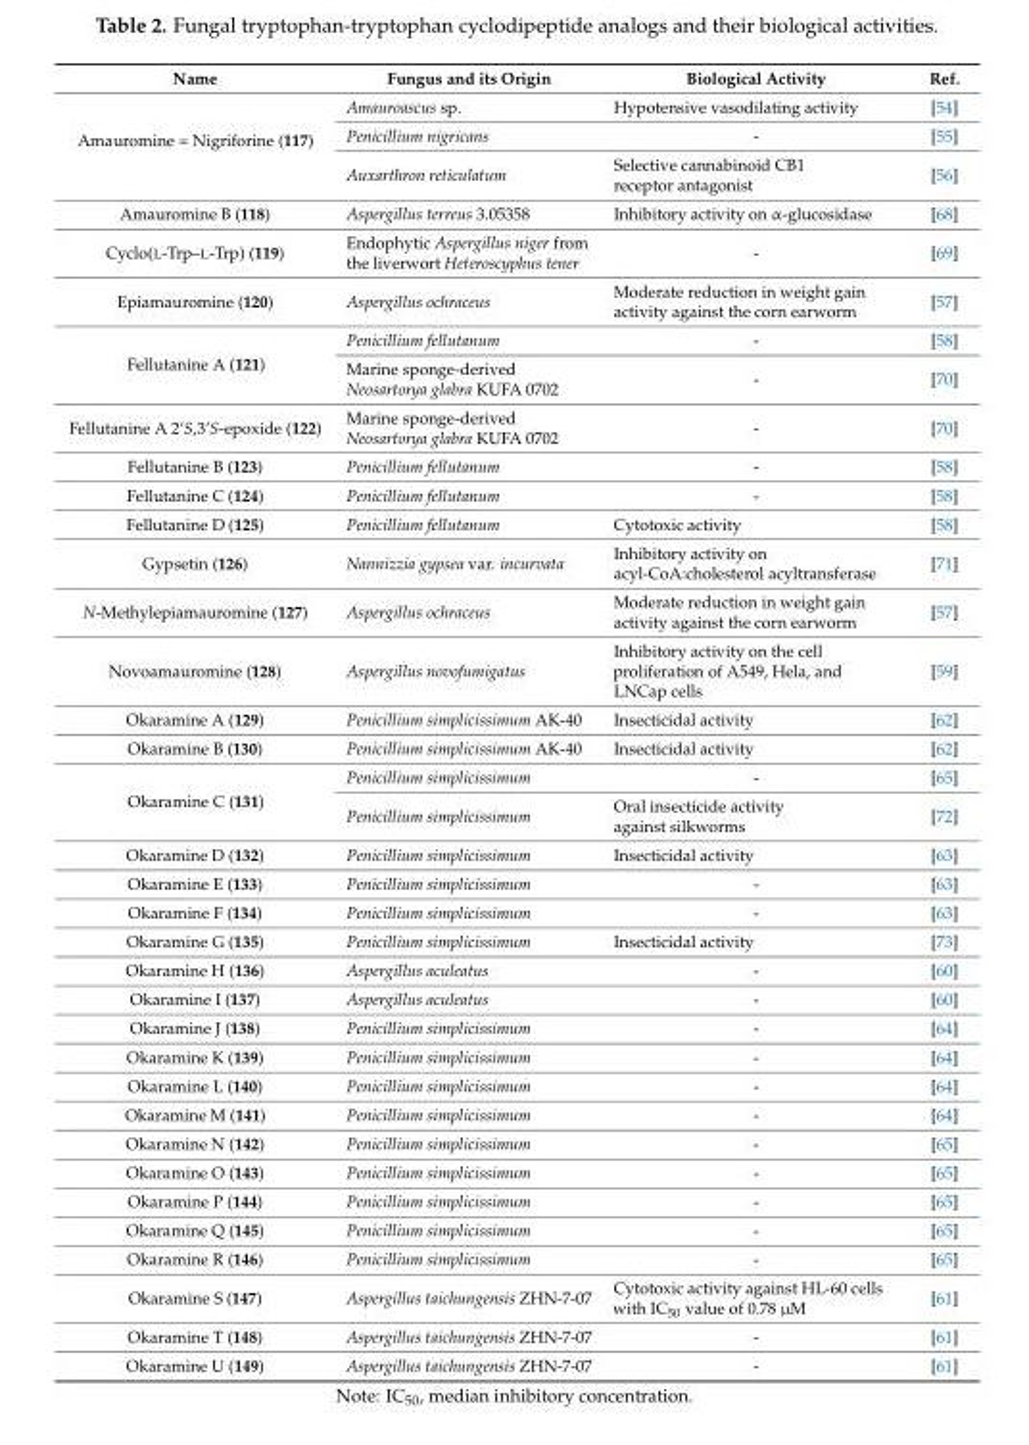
<table><thead><tr><td>Name</td><td>Fungus and its Origin</td><td>Biological Activity</td><td>Ref.</td></tr></thead><tbody><tr><td rowspan="3">Amauromine = Nigriforine (117)</td><td>Amauroascus sp.</td><td>Hypotensive vasodilating activity</td><td>[54]</td></tr><tr><td>Penicillium nigricans</td><td>-</td><td>[55]</td></tr><tr><td>Auxarthron reticulatum</td><td>Selective cannabinoid CB1 receptor antagonist</td><td>[56]</td></tr><tr><td>Amauromine B (118)</td><td>Aspergillus terreus 3.05358</td><td>Inhibitory activity on α-glucosidase</td><td>[68]</td></tr><tr><td>Cyclo(L-Trp–L-Trp) (119)</td><td>Endophytic Aspergillus niger from the liverwort Heteroscyphus tener</td><td>-</td><td>[69]</td></tr><tr><td>Epiamauromine (120)</td><td>Aspergillus ochraceus</td><td>Moderate reduction in weight gain activity against the corn earworm</td><td>[57]</td></tr><tr><td rowspan="2">Fellutanine A (121)</td><td>Penicillium fellutanum</td><td>-</td><td>[58]</td></tr><tr><td>Marine sponge-derived Neosartorya glabra KUFA 0702</td><td>-</td><td>[70]</td></tr><tr><td>Fellutanine A 2’S,3’S-epoxide (122)</td><td>Marine sponge-derived Neosartorya glabra KUFA 0702</td><td>-</td><td>[70]</td></tr><tr><td>Fellutanine B (123)</td><td>Penicillium fellutanum</td><td>-</td><td>[58]</td></tr><tr><td>Fellutanine C (124)</td><td>Penicillium fellutanum</td><td>-</td><td>[58]</td></tr><tr><td>Fellutanine D (125)</td><td>Penicillium fellutanum</td><td>Cytotoxic activity</td><td>[58]</td></tr><tr><td>Gypsetin (126)</td><td>Nannizzia gypsea var. incurvata</td><td>Inhibitory activity on acyl-CoA:cholesterol acyltransferase</td><td>[71]</td></tr><tr><td>N-Methylepiamauromine (127)</td><td>Aspergillus ochraceus</td><td>Moderate reduction in weight gain activity against the corn earworm</td><td>[57]</td></tr><tr><td>Novoamauromine (128)</td><td>Aspergillus novofumigatus</td><td>Inhibitory activity on the cell proliferation of A549, Hela, and LNCap cells</td><td>[59]</td></tr><tr><td>Okaramine A (129)</td><td>Penicillium simplicissimum AK-40</td><td>Insecticidal activity</td><td>[62]</td></tr><tr><td>Okaramine B (130)</td><td>Penicillium simplicissimum AK-40</td><td>Insecticidal activity</td><td>[62]</td></tr><tr><td rowspan="2">Okaramine C (131)</td><td>Penicillium simplicissimum</td><td>-</td><td>[65]</td></tr><tr><td>Penicillium simplicissimum</td><td>Oral insecticide activity against silkworms</td><td>[72]</td></tr><tr><td>Okaramine D (132)</td><td>Penicillium simplicissimum</td><td>Insecticidal activity</td><td>[63]</td></tr><tr><td>Okaramine E (133)</td><td>Penicillium simplicissimum</td><td>-</td><td>[63]</td></tr><tr><td>Okaramine F (134)</td><td>Penicillium simplicissimum</td><td>-</td><td>[63]</td></tr><tr><td>Okaramine G (135)</td><td>Penicillium simplicissimum</td><td>Insecticidal activity</td><td>[73]</td></tr><tr><td>Okaramine H (136)</td><td>Aspergillus aculeatus</td><td>-</td><td>[60]</td></tr><tr><td>Okaramine I (137)</td><td>Aspergillus aculeatus</td><td>-</td><td>[60]</td></tr><tr><td>Okaramine J (138)</td><td>Penicillium simplicissimum</td><td>-</td><td>[64]</td></tr><tr><td>Okaramine K (139)</td><td>Penicillium simplicissimum</td><td>-</td><td>[64]</td></tr><tr><td>Okaramine L (140)</td><td>Penicillium simplicissimum</td><td>-</td><td>[64]</td></tr><tr><td>Okaramine M (141)</td><td>Penicillium simplicissimum</td><td>-</td><td>[64]</td></tr><tr><td>Okaramine N (142)</td><td>Penicillium simplicissimum</td><td>-</td><td>[65]</td></tr><tr><td>Okaramine O (143)</td><td>Penicillium simplicissimum</td><td>-</td><td>[65]</td></tr><tr><td>Okaramine P (144)</td><td>Penicillium simplicissimum</td><td>-</td><td>[65]</td></tr><tr><td>Okaramine Q (145)</td><td>Penicillium simplicissimum</td><td>-</td><td>[65]</td></tr><tr><td>Okaramine R (146)</td><td>Penicillium simplicissimum</td><td>-</td><td>[65]</td></tr><tr><td>Okaramine S (147)</td><td>Aspergillus taichungensis ZHN-7-07</td><td>Cytotoxic activity against HL-60 cells with IC<sub>50</sub> value of 0.78 µM</td><td>[61]</td></tr><tr><td>Okaramine T (148)</td><td>Aspergillus taichungensis ZHN-7-07</td><td>-</td><td>[61]</td></tr><tr><td>Okaramine U (149)</td><td>Aspergillus taichungensis ZHN-7-07</td><td>-</td><td>[61]</td></tr></tbody></table>